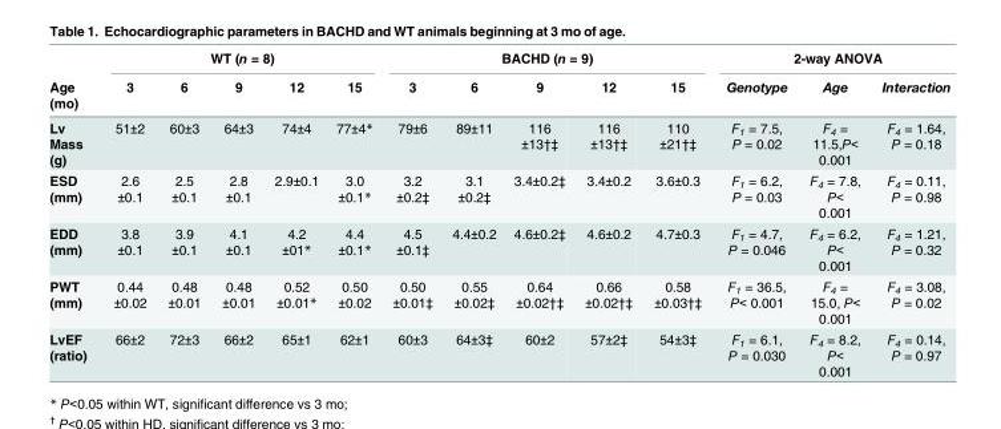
<table><thead><tr><td rowspan="2">Age (mo)</td><td colspan="5">WT (n = 8)</td><td colspan="5">BACHD (n = 9)</td><td colspan="3">2-way ANOVA</td></tr><tr><td>3</td><td>6</td><td>9</td><td>12</td><td>15</td><td>3</td><td>6</td><td>9</td><td>12</td><td>15</td><td>Genotype</td><td>Age</td><td>Interaction</td></tr></thead><tbody><tr><td>Lv Mass (g)</td><td>51±2</td><td>60±3</td><td>64±3</td><td>74±4</td><td>77±4*</td><td>79±6</td><td>89±11</td><td>116 ±13†‡</td><td>116 ±13†‡</td><td>110 ±21†‡</td><td>F<sub>1</sub> = 7.5, P = 0.02</td><td>F<sub>4</sub> = 11.5,P&lt; 0.001</td><td>F<sub>4</sub> = 1.64, P = 0.18</td></tr><tr><td>ESD (mm)</td><td>2.6 ±0.1</td><td>2.5 ±0.1</td><td>2.8 ±0.1</td><td>2.9±0.1</td><td>3.0 ±0.1*</td><td>3.2 ±0.2‡</td><td>3.1 ±0.2‡</td><td>3.4±0.2‡</td><td>3.4±0.2</td><td>3.6±0.3</td><td>F<sub>1</sub> = 6.2, P = 0.03</td><td>F<sub>4</sub> = 7.8, P&lt; 0.001</td><td>F<sub>4</sub> = 0.11, P = 0.98</td></tr><tr><td>EDD (mm)</td><td>3.8 ±0.1</td><td>3.9 ±0.1</td><td>4.1 ±0.1</td><td>4.2 ±01*</td><td>4.4 ±0.1*</td><td>4.5 ±0.1‡</td><td>4.4±0.2</td><td>4.6±0.2‡</td><td>4.6±0.2</td><td>4.7±0.3</td><td>F<sub>1</sub> = 4.7, P = 0.046</td><td>F<sub>4</sub> = 6.2, P&lt; 0.001</td><td>F<sub>4</sub> = 1.21, P = 0.32</td></tr><tr><td>PWT (mm)</td><td>0.44 ±0.02</td><td>0.48 ±0.01</td><td>0.48 ±0.01</td><td>0.52 ±0.01*</td><td>0.50 ±0.02</td><td>0.50 ±0.01‡</td><td>0.55 ±0.02‡</td><td>0.64 ±0.02†‡</td><td>0.66 ±0.02†‡</td><td>0.58 ±0.03†‡</td><td>F<sub>1</sub> = 36.5, P&lt; 0.001</td><td>F<sub>4</sub> = 15.0, P&lt; 0.001</td><td>F<sub>4</sub> = 3.08, P = 0.02</td></tr><tr><td>LvEF (ratio)</td><td>66±2</td><td>72±3</td><td>66±2</td><td>65±1</td><td>62±1</td><td>60±3</td><td>64±3‡</td><td>60±2</td><td>57±2‡</td><td>54±3‡</td><td>F<sub>1</sub> = 6.1, P = 0.030</td><td>F<sub>4</sub> = 8.2, P&lt; 0.001</td><td>F<sub>4</sub> = 0.14, P = 0.97</td></tr></tbody></table>